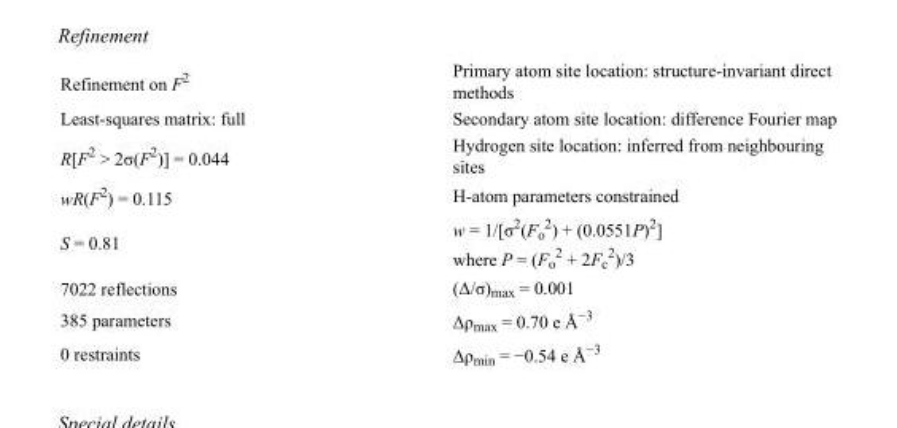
<table><tbody><tr><td>Refinement on F<sup>2</sup></td><td>Primary atom site location: structure-invariant direct methods</td></tr><tr><td>Least-squares matrix: full</td><td>Secondary atom site location: difference Fourier map</td></tr><tr><td>R[F<sup>2</sup> &gt; 2σ(F<sup>2</sup>)] = 0.044</td><td>Hydrogen site location: inferred from neighbouring sites</td></tr><tr><td>wR(F<sup>2</sup>) = 0.115</td><td>H-atom parameters constrained</td></tr><tr><td>S = 0.81</td><td>w = 1/[σ<sup>2</sup>(F<sub>o</sub> <sup>2</sup>) + (0.0551P)<sup>2</sup>] where P = (F<sub>o</sub> <sup>2</sup> + 2F<sub>c</sub> <sup>2</sup>)/3</td></tr><tr><td>7022 reflections</td><td>(Δ/σ)<sub>max</sub> = 0.001</td></tr><tr><td>385 parameters</td><td>Δρ<sub>max</sub> = 0.70 e Å<sup>−3</sup></td></tr><tr><td>0 restraints</td><td>Δρ<sub>min</sub> = −0.54 e Å<sup>−3</sup></td></tr></tbody></table>